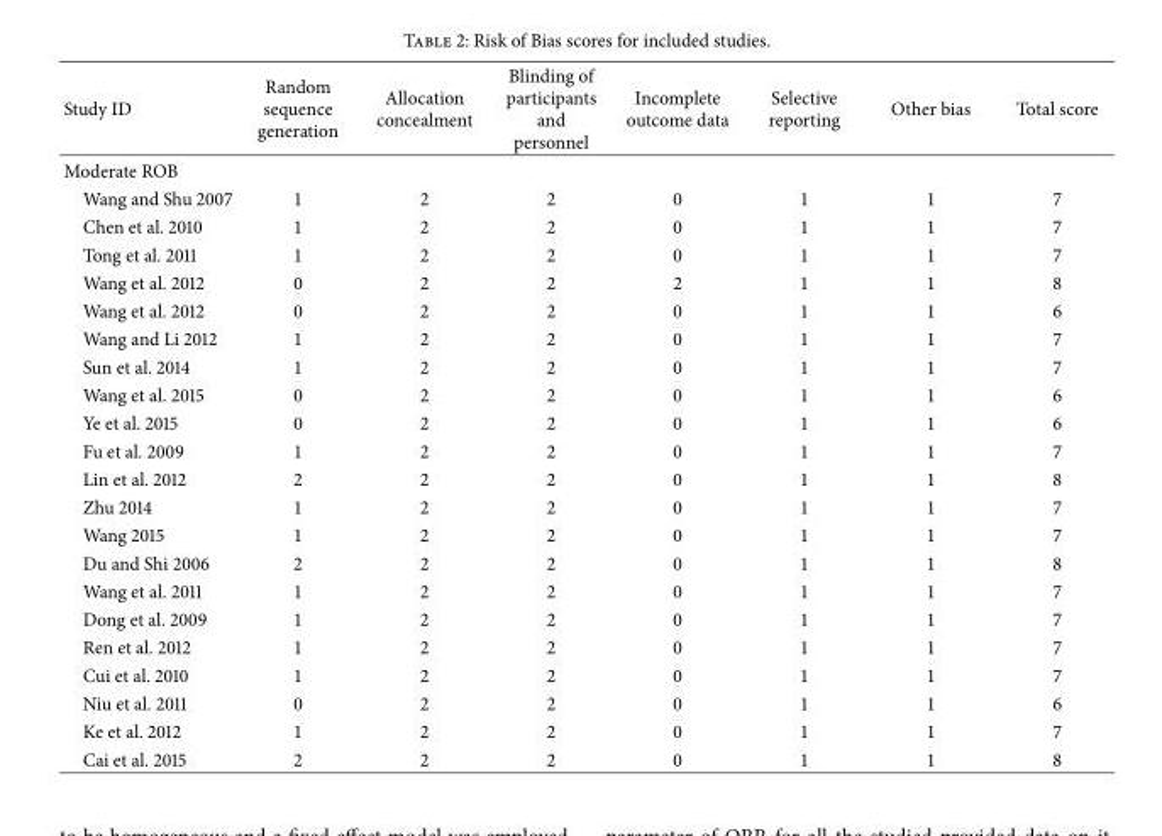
<table><thead><tr><td>Study ID</td><td>Random sequence generation</td><td>Allocation concealment</td><td>Blinding of participants and personnel</td><td>Incomplete outcome data</td><td>Selective reporting</td><td>Other bias</td><td>Total score</td></tr></thead><tbody><tr><td colspan="8">Moderate ROB</td></tr><tr><td>Wang and Shu 2007</td><td>1</td><td>2</td><td>2</td><td>0</td><td>1</td><td>1</td><td>7</td></tr><tr><td>Chen et al. 2010</td><td>1</td><td>2</td><td>2</td><td>0</td><td>1</td><td>1</td><td>7</td></tr><tr><td>Tong et al. 2011</td><td>1</td><td>2</td><td>2</td><td>0</td><td>1</td><td>1</td><td>7</td></tr><tr><td>Wang et al. 2012</td><td>0</td><td>2</td><td>2</td><td>2</td><td>1</td><td>1</td><td>8</td></tr><tr><td>Wang et al. 2012</td><td>0</td><td>2</td><td>2</td><td>0</td><td>1</td><td>1</td><td>6</td></tr><tr><td>Wang and Li 2012</td><td>1</td><td>2</td><td>2</td><td>0</td><td>1</td><td>1</td><td>7</td></tr><tr><td>Sun et al. 2014</td><td>1</td><td>2</td><td>2</td><td>0</td><td>1</td><td>1</td><td>7</td></tr><tr><td>Wang et al. 2015</td><td>0</td><td>2</td><td>2</td><td>0</td><td>1</td><td>1</td><td>6</td></tr><tr><td>Ye et al. 2015</td><td>0</td><td>2</td><td>2</td><td>0</td><td>1</td><td>1</td><td>6</td></tr><tr><td>Fu et al. 2009</td><td>1</td><td>2</td><td>2</td><td>0</td><td>1</td><td>1</td><td>7</td></tr><tr><td>Lin et al. 2012</td><td>2</td><td>2</td><td>2</td><td>0</td><td>1</td><td>1</td><td>8</td></tr><tr><td>Zhu 2014</td><td>1</td><td>2</td><td>2</td><td>0</td><td>1</td><td>1</td><td>7</td></tr><tr><td>Wang 2015</td><td>1</td><td>2</td><td>2</td><td>0</td><td>1</td><td>1</td><td>7</td></tr><tr><td>Du and Shi 2006</td><td>2</td><td>2</td><td>2</td><td>0</td><td>1</td><td>1</td><td>8</td></tr><tr><td>Wang et al. 2011</td><td>1</td><td>2</td><td>2</td><td>0</td><td>1</td><td>1</td><td>7</td></tr><tr><td>Dong et al. 2009</td><td>1</td><td>2</td><td>2</td><td>0</td><td>1</td><td>1</td><td>7</td></tr><tr><td>Ren et al. 2012</td><td>1</td><td>2</td><td>2</td><td>0</td><td>1</td><td>1</td><td>7</td></tr><tr><td>Cui et al. 2010</td><td>1</td><td>2</td><td>2</td><td>0</td><td>1</td><td>1</td><td>7</td></tr><tr><td>Niu et al. 2011</td><td>0</td><td>2</td><td>2</td><td>0</td><td>1</td><td>1</td><td>6</td></tr><tr><td>Ke et al. 2012</td><td>1</td><td>2</td><td>2</td><td>0</td><td>1</td><td>1</td><td>7</td></tr><tr><td>Cai et al. 2015</td><td>2</td><td>2</td><td>2</td><td>0</td><td>1</td><td>1</td><td>8</td></tr></tbody></table>